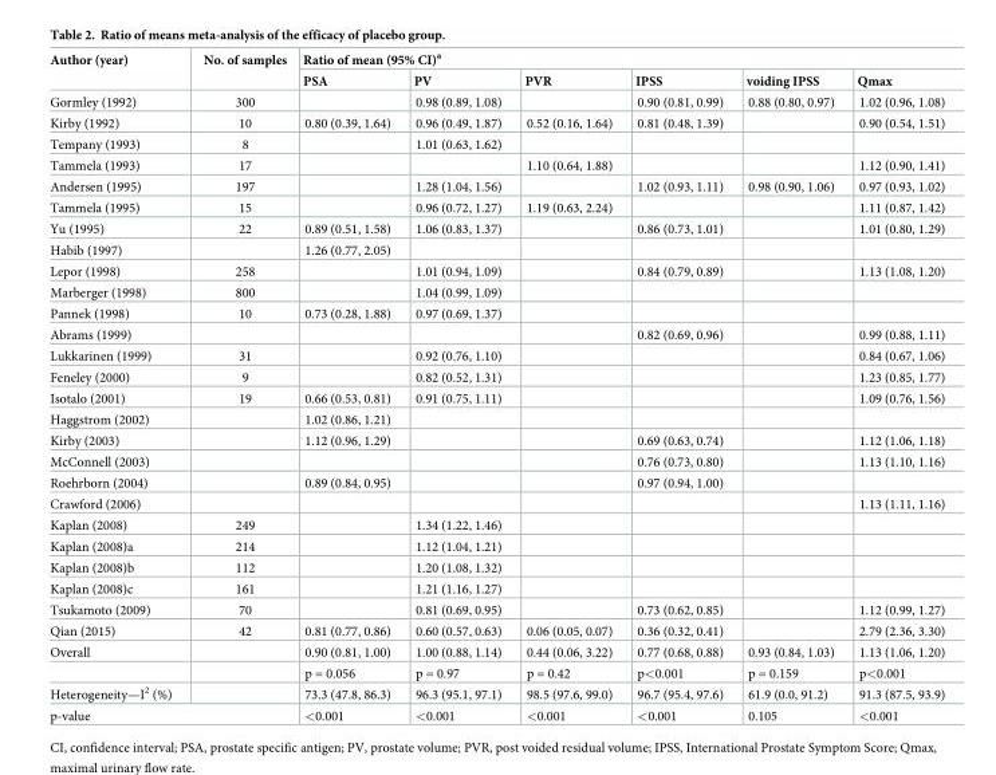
<table><thead><tr><td rowspan="2">Author (year)</td><td rowspan="2">No. of samples</td><td colspan="6">Ratio of mean (95% CI)<sup>a</sup></td></tr><tr><td>PSA</td><td>PV</td><td>PVR</td><td>IPSS</td><td>voiding IPSS</td><td>Qmax</td></tr></thead><tbody><tr><td>Gormley (1992)</td><td>300</td><td></td><td>0.98 (0.89, 1.08)</td><td></td><td>0.90 (0.81, 0.99)</td><td>0.88 (0.80, 0.97)</td><td>1.02 (0.96, 1.08)</td></tr><tr><td>Kirby (1992)</td><td>10</td><td>0.80 (0.39, 1.64)</td><td>0.96 (0.49, 1.87)</td><td>0.52 (0.16, 1.64)</td><td>0.81 (0.48, 1.39)</td><td></td><td>0.90 (0.54, 1.51)</td></tr><tr><td>Tempany (1993)</td><td>8</td><td></td><td>1.01 (0.63, 1.62)</td><td></td><td></td><td></td><td></td></tr><tr><td>Tammela (1993)</td><td>17</td><td></td><td></td><td>1.10 (0.64, 1.88)</td><td></td><td></td><td>1.12 (0.90, 1.41)</td></tr><tr><td>Andersen (1995)</td><td>197</td><td></td><td>1.28 (1.04, 1.56)</td><td></td><td>1.02 (0.93, 1.11)</td><td>0.98 (0.90, 1.06)</td><td>0.97 (0.93, 1.02)</td></tr><tr><td>Tammela (1995)</td><td>15</td><td></td><td>0.96 (0.72, 1.27)</td><td>1.19 (0.63, 2.24)</td><td></td><td></td><td>1.11 (0.87, 1.42)</td></tr><tr><td>Yu (1995)</td><td>22</td><td>0.89 (0.51, 1.58)</td><td>1.06 (0.83, 1.37)</td><td></td><td>0.86 (0.73, 1.01)</td><td></td><td>1.01 (0.80, 1.29)</td></tr><tr><td>Habib (1997)</td><td></td><td>1.26 (0.77, 2.05)</td><td></td><td></td><td></td><td></td><td></td></tr><tr><td>Lepor (1998)</td><td>258</td><td></td><td>1.01 (0.94, 1.09)</td><td></td><td>0.84 (0.79, 0.89)</td><td></td><td>1.13 (1.08, 1.20)</td></tr><tr><td>Marberger (1998)</td><td>800</td><td></td><td>1.04 (0.99, 1.09)</td><td></td><td></td><td></td><td></td></tr><tr><td>Pannek (1998)</td><td>10</td><td>0.73 (0.28, 1.88)</td><td>0.97 (0.69, 1.37)</td><td></td><td></td><td></td><td></td></tr><tr><td>Abrams (1999)</td><td></td><td></td><td></td><td></td><td>0.82 (0.69, 0.96)</td><td></td><td>0.99 (0.88, 1.11)</td></tr><tr><td>Lukkarinen (1999)</td><td>31</td><td></td><td>0.92 (0.76, 1.10)</td><td></td><td></td><td></td><td>0.84 (0.67, 1.06)</td></tr><tr><td>Feneley (2000)</td><td>9</td><td></td><td>0.82 (0.52, 1.31)</td><td></td><td></td><td></td><td>1.23 (0.85, 1.77)</td></tr><tr><td>Isotalo (2001)</td><td>19</td><td>0.66 (0.53, 0.81)</td><td>0.91 (0.75, 1.11)</td><td></td><td></td><td></td><td>1.09 (0.76, 1.56)</td></tr><tr><td>Haggstrom (2002)</td><td></td><td>1.02 (0.86, 1.21)</td><td></td><td></td><td></td><td></td><td></td></tr><tr><td>Kirby (2003)</td><td></td><td>1.12 (0.96, 1.29)</td><td></td><td></td><td>0.69 (0.63, 0.74)</td><td></td><td>1.12 (1.06, 1.18)</td></tr><tr><td>McConnell (2003)</td><td></td><td></td><td></td><td></td><td>0.76 (0.73, 0.80)</td><td></td><td>1.13 (1.10, 1.16)</td></tr><tr><td>Roehrborn (2004)</td><td></td><td>0.89 (0.84, 0.95)</td><td></td><td></td><td>0.97 (0.94, 1.00)</td><td></td><td></td></tr><tr><td>Crawford (2006)</td><td></td><td></td><td></td><td></td><td></td><td></td><td>1.13 (1.11, 1.16)</td></tr><tr><td>Kaplan (2008)</td><td>249</td><td></td><td>1.34 (1.22, 1.46)</td><td></td><td></td><td></td><td></td></tr><tr><td>Kaplan (2008)a</td><td>214</td><td></td><td>1.12 (1.04, 1.21)</td><td></td><td></td><td></td><td></td></tr><tr><td>Kaplan (2008)b</td><td>112</td><td></td><td>1.20 (1.08, 1.32)</td><td></td><td></td><td></td><td></td></tr><tr><td>Kaplan (2008)c</td><td>161</td><td></td><td>1.21 (1.16, 1.27)</td><td></td><td></td><td></td><td></td></tr><tr><td>Tsukamoto (2009)</td><td>70</td><td></td><td>0.81 (0.69, 0.95)</td><td></td><td>0.73 (0.62, 0.85)</td><td></td><td>1.12 (0.99, 1.27)</td></tr><tr><td>Qian (2015)</td><td>42</td><td>0.81 (0.77, 0.86)</td><td>0.60 (0.57, 0.63)</td><td>0.06 (0.05, 0.07)</td><td>0.36 (0.32, 0.41)</td><td></td><td>2.79 (2.36, 3.30)</td></tr><tr><td rowspan="2">Overall</td><td></td><td>0.90 (0.81, 1.00)</td><td>1.00 (0.88, 1.14)</td><td>0.44 (0.06, 3.22)</td><td>0.77 (0.68, 0.88)</td><td>0.93 (0.84, 1.03)</td><td>1.13 (1.06, 1.20)</td></tr><tr><td></td><td>p = 0.056</td><td>p = 0.97</td><td>p = 0.42</td><td>p&lt;0.001</td><td>p = 0.159</td><td>p&lt;0.001</td></tr><tr><td>Heterogeneity—I<sup>2</sup> (%)</td><td></td><td>73.3 (47.8, 86.3)</td><td>96.3 (95.1, 97.1)</td><td>98.5 (97.6, 99.0)</td><td>96.7 (95.4, 97.6)</td><td>61.9 (0.0, 91.2)</td><td>91.3 (87.5, 93.9)</td></tr><tr><td colspan="2">p-value</td><td>&lt;0.001</td><td>&lt;0.001</td><td>&lt;0.001</td><td>&lt;0.001</td><td>0.105</td><td>&lt;0.001</td></tr></tbody></table>